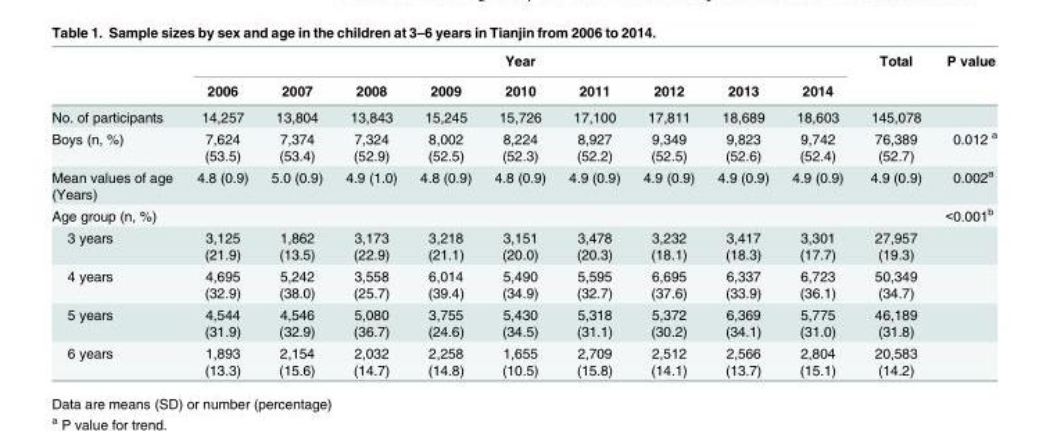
<table><thead><tr><td rowspan="2"></td><td colspan="9">Year</td><td rowspan="2">Total</td><td rowspan="2">P value</td></tr><tr><td>2006</td><td>2007</td><td>2008</td><td>2009</td><td>2010</td><td>2011</td><td>2012</td><td>2013</td><td>2014</td></tr></thead><tbody><tr><td>No. of participants</td><td>14,257</td><td>13,804</td><td>13,843</td><td>15,245</td><td>15,726</td><td>17,100</td><td>17,811</td><td>18,689</td><td>18,603</td><td>145,078</td><td></td></tr><tr><td>Boys (n, %)</td><td>7,624 (53.5)</td><td>7,374 (53.4)</td><td>7,324 (52.9)</td><td>8,002 (52.5)</td><td>8,224 (52.3)</td><td>8,927 (52.2)</td><td>9,349 (52.5)</td><td>9,823 (52.6)</td><td>9,742 (52.4)</td><td>76,389 (52.7)</td><td>0.012 <sup>a</sup></td></tr><tr><td>Mean values of age (Years)</td><td>4.8 (0.9)</td><td>5.0 (0.9)</td><td>4.9 (1.0)</td><td>4.8 (0.9)</td><td>4.8 (0.9)</td><td>4.9 (0.9)</td><td>4.9 (0.9)</td><td>4.9 (0.9)</td><td>4.9 (0.9)</td><td>4.9 (0.9)</td><td>0.002<sup>a</sup></td></tr><tr><td>Age group (n, %)</td><td></td><td></td><td></td><td></td><td></td><td></td><td></td><td></td><td></td><td></td><td>&lt;0.001<sup>b</sup></td></tr><tr><td>3 years</td><td>3,125 (21.9)</td><td>1,862 (13.5)</td><td>3,173 (22.9)</td><td>3,218 (21.1)</td><td>3,151 (20.0)</td><td>3,478 (20.3)</td><td>3,232 (18.1)</td><td>3,417 (18.3)</td><td>3,301 (17.7)</td><td>27,957 (19.3)</td><td></td></tr><tr><td>4 years</td><td>4,695 (32.9)</td><td>5,242 (38.0)</td><td>3,558 (25.7)</td><td>6,014 (39.4)</td><td>5,490 (34.9)</td><td>5,595 (32.7)</td><td>6,695 (37.6)</td><td>6,337 (33.9)</td><td>6,723 (36.1)</td><td>50,349 (34.7)</td><td></td></tr><tr><td>5 years</td><td>4,544 (31.9)</td><td>4,546 (32.9)</td><td>5,080 (36.7)</td><td>3,755 (24.6)</td><td>5,430 (34.5)</td><td>5,318 (31.1)</td><td>5,372 (30.2)</td><td>6,369 (34.1)</td><td>5,775 (31.0)</td><td>46,189 (31.8)</td><td></td></tr><tr><td>6 years</td><td>1,893 (13.3)</td><td>2,154 (15.6)</td><td>2,032 (14.7)</td><td>2,258 (14.8)</td><td>1,655 (10.5)</td><td>2,709 (15.8)</td><td>2,512 (14.1)</td><td>2,566 (13.7)</td><td>2,804 (15.1)</td><td>20,583 (14.2)</td><td></td></tr></tbody></table>